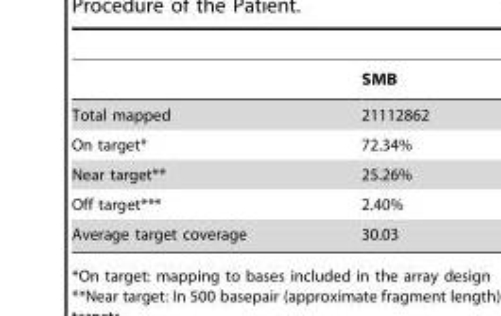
<table><thead><tr><td></td><td>SMB</td></tr></thead><tbody><tr><td>Total mapped</td><td>21112862</td></tr><tr><td>On target*</td><td>72.34%</td></tr><tr><td>Near target**</td><td>25.26%</td></tr><tr><td>Off target***</td><td>2.40%</td></tr><tr><td>Average target coverage</td><td>30.03</td></tr></tbody></table>